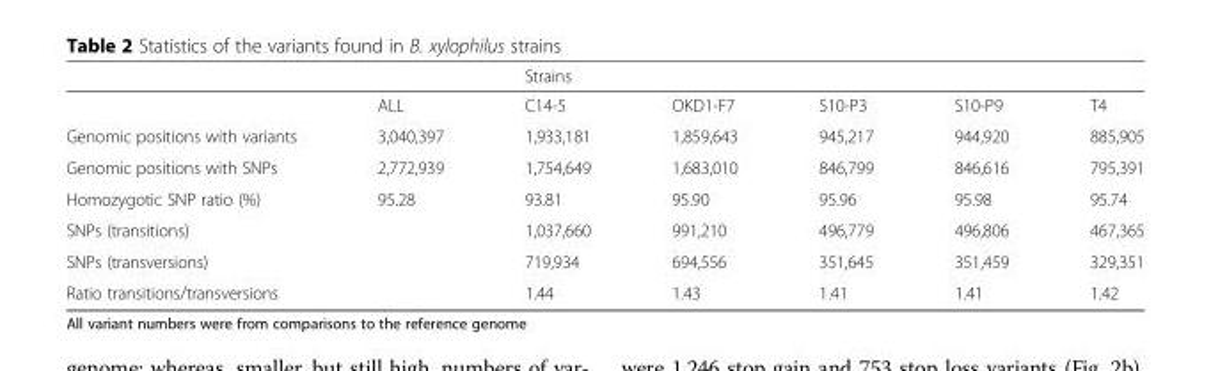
<table><thead><tr><td rowspan="2"></td><td rowspan="2">ALL</td><td colspan="5">Strains</td></tr><tr><td>C14-5</td><td>OKD1-F7</td><td>S10-P3</td><td>S10-P9</td><td>T4</td></tr></thead><tbody><tr><td>Genomic positions with variants</td><td>3,040,397</td><td>1,933,181</td><td>1,859,643</td><td>945,217</td><td>944,920</td><td>885,905</td></tr><tr><td>Genomic positions with SNPs</td><td>2,772,939</td><td>1,754,649</td><td>1,683,010</td><td>846,799</td><td>846,616</td><td>795,391</td></tr><tr><td>Homozygotic SNP ratio (%)</td><td>95.28</td><td>93.81</td><td>95.90</td><td>95.96</td><td>95.98</td><td>95.74</td></tr><tr><td>SNPs (transitions)</td><td></td><td>1,037,660</td><td>991,210</td><td>496,779</td><td>496,806</td><td>467,365</td></tr><tr><td>SNPs (transversions)</td><td></td><td>719,934</td><td>694,556</td><td>351,645</td><td>351,459</td><td>329,351</td></tr><tr><td>Ratio transitions/transversions</td><td></td><td>1.44</td><td>1.43</td><td>1.41</td><td>1.41</td><td>1.42</td></tr></tbody></table>